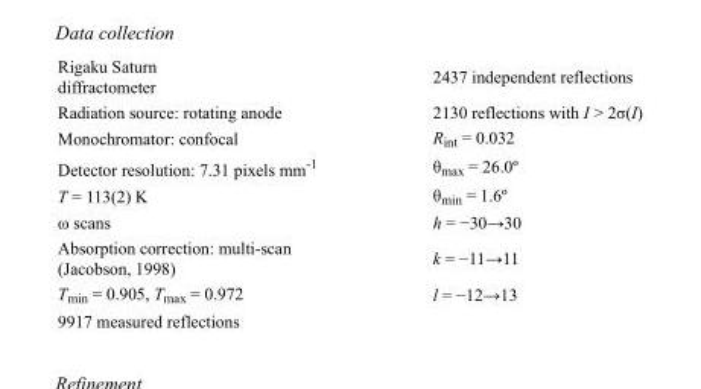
<table><tbody><tr><td>Rigaku Saturn diffractometer</td><td>2437 independent reflections</td></tr><tr><td>Radiation source: rotating anode</td><td>2130 reflections with I &gt; 2σ(I)</td></tr><tr><td>Monochromator: confocal</td><td>R<sub>int</sub> = 0.032</td></tr><tr><td>Detector resolution: 7.31 pixels mm<sup>-1</sup></td><td>θ<sub>max</sub> = 26.0º</td></tr><tr><td>T = 113(2) K</td><td>θ<sub>min</sub> = 1.6º</td></tr><tr><td>ω scans</td><td>h = −30→30</td></tr><tr><td>Absorption correction: multi-scan (Jacobson, 1998)</td><td>k = −11→11</td></tr><tr><td>T<sub>min</sub> = 0.905, T<sub>max</sub> = 0.972</td><td>l = −12→13</td></tr><tr><td>9917 measured reflections</td><td></td></tr></tbody></table>